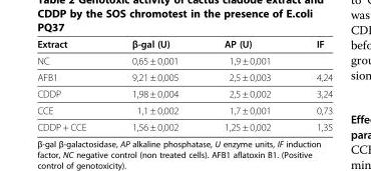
<table><thead><tr><td>Extract</td><td>β-gal (U)</td><td>AP (U)</td><td>IF</td></tr></thead><tbody><tr><td>NC</td><td>0,65 ± 0,001</td><td>1,9 ± 0,001</td><td></td></tr><tr><td>AFB1</td><td>9,21 ± 0,005</td><td>2,5 ± 0,003</td><td>4,24</td></tr><tr><td>CDDP</td><td>1,98 ± 0,004</td><td>2,5 ± 0,002</td><td>3,24</td></tr><tr><td>CCE</td><td>1,1 ± 0,002</td><td>1,7 ± 0,001</td><td>0,73</td></tr><tr><td>CDDP + CCE</td><td>1,56 ± 0,002</td><td>1,25 ± 0,002</td><td>1,35</td></tr></tbody></table>